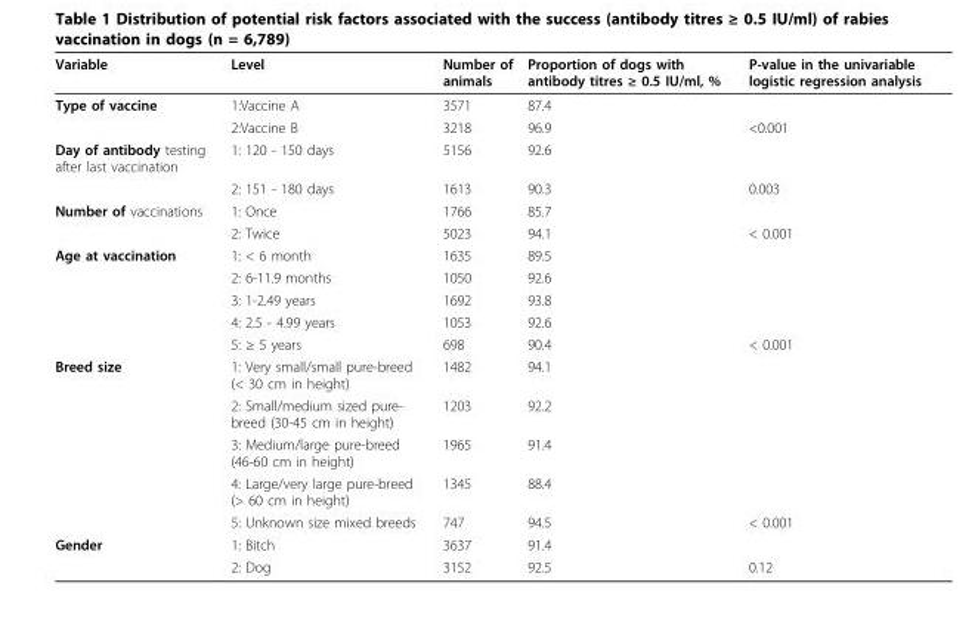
<table><thead><tr><td>Variable</td><td>Level</td><td>Number of animals</td><td>Proportion of dogs with antibody titres ≥ 0.5 IU/ml, %</td><td>P-value in the univariable logistic regression analysis</td></tr></thead><tbody><tr><td rowspan="2">Type of vaccine</td><td>1:Vaccine A</td><td>3571</td><td>87.4</td><td></td></tr><tr><td>2:Vaccine B</td><td>3218</td><td>96.9</td><td>&lt;0.001</td></tr><tr><td rowspan="2">Day of antibody testing after last vaccination</td><td>1: 120 - 150 days</td><td>5156</td><td>92.6</td><td></td></tr><tr><td>2: 151 - 180 days</td><td>1613</td><td>90.3</td><td>0.003</td></tr><tr><td rowspan="2">Number of vaccinations</td><td>1: Once</td><td>1766</td><td>85.7</td><td></td></tr><tr><td>2: Twice</td><td>5023</td><td>94.1</td><td>&lt; 0.001</td></tr><tr><td rowspan="5">Age at vaccination</td><td>1: &lt; 6 month</td><td>1635</td><td>89.5</td><td></td></tr><tr><td>2: 6-11.9 months</td><td>1050</td><td>92.6</td><td></td></tr><tr><td>3: 1-2.49 years</td><td>1692</td><td>93.8</td><td></td></tr><tr><td>4: 2.5 - 4.99 years</td><td>1053</td><td>92.6</td><td></td></tr><tr><td>5: ≥ 5 years</td><td>698</td><td>90.4</td><td>&lt; 0.001</td></tr><tr><td rowspan="5">Breed size</td><td>1: Very small/small pure-breed (&lt; 30 cm in height)</td><td>1482</td><td>94.1</td><td></td></tr><tr><td>2: Small/medium sized pure- breed (30-45 cm in height)</td><td>1203</td><td>92.2</td><td></td></tr><tr><td>3: Medium/large pure-breed (46-60 cm in height)</td><td>1965</td><td>91.4</td><td></td></tr><tr><td>4: Large/very large pure-breed (&gt; 60 cm in height)</td><td>1345</td><td>88.4</td><td></td></tr><tr><td>5: Unknown size mixed breeds</td><td>747</td><td>94.5</td><td>&lt; 0.001</td></tr><tr><td rowspan="2">Gender</td><td>1: Bitch</td><td>3637</td><td>91.4</td><td></td></tr><tr><td>2: Dog</td><td>3152</td><td>92.5</td><td>0.12</td></tr></tbody></table>